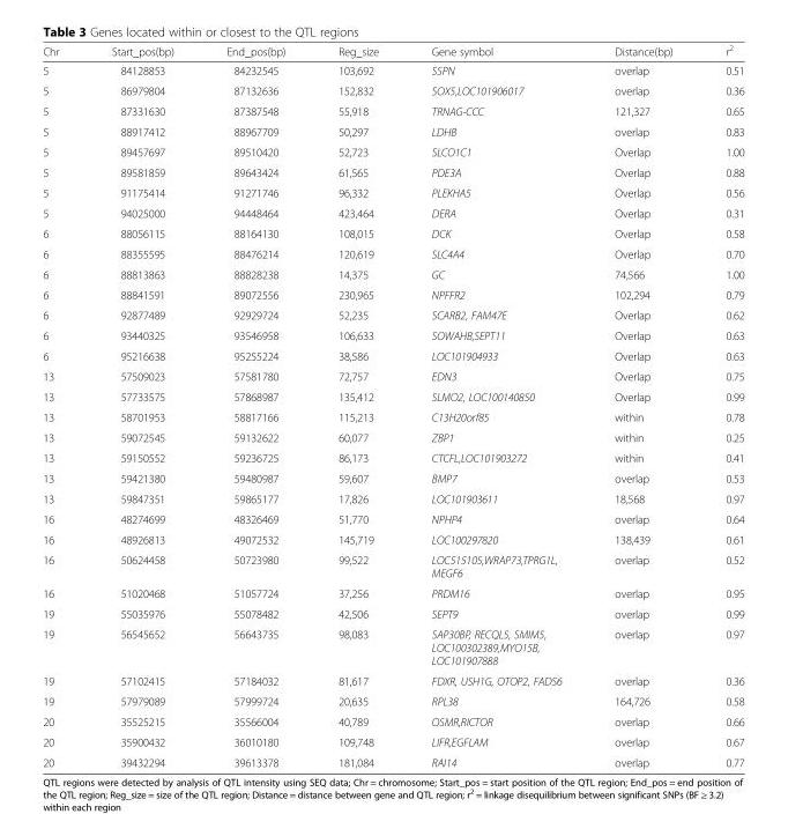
<table><thead><tr><td>Chr</td><td>Start_pos(bp)</td><td>End_pos(bp)</td><td>Reg_size</td><td>Gene symbol</td><td>Distance(bp)</td><td>r<sup>2</sup></td></tr></thead><tbody><tr><td>5</td><td>84128853</td><td>84232545</td><td>103,692</td><td>SSPN</td><td>overlap</td><td>0.51</td></tr><tr><td>5</td><td>86979804</td><td>87132636</td><td>152,832</td><td>SOX5,LOC101906017</td><td>overlap</td><td>0.36</td></tr><tr><td>5</td><td>87331630</td><td>87387548</td><td>55,918</td><td>TRNAG-CCC</td><td>121,327</td><td>0.65</td></tr><tr><td>5</td><td>88917412</td><td>88967709</td><td>50,297</td><td>LDHB</td><td>overlap</td><td>0.83</td></tr><tr><td>5</td><td>89457697</td><td>89510420</td><td>52,723</td><td>SLCO1C1</td><td>Overlap</td><td>1.00</td></tr><tr><td>5</td><td>89581859</td><td>89643424</td><td>61,565</td><td>PDE3A</td><td>Overlap</td><td>0.88</td></tr><tr><td>5</td><td>91175414</td><td>91271746</td><td>96,332</td><td>PLEKHA5</td><td>Overlap</td><td>0.56</td></tr><tr><td>5</td><td>94025000</td><td>94448464</td><td>423,464</td><td>DERA</td><td>Overlap</td><td>0.31</td></tr><tr><td>6</td><td>88056115</td><td>88164130</td><td>108,015</td><td>DCK</td><td>Overlap</td><td>0.58</td></tr><tr><td>6</td><td>88355595</td><td>88476214</td><td>120,619</td><td>SLC4A4</td><td>Overlap</td><td>0.70</td></tr><tr><td>6</td><td>88813863</td><td>88828238</td><td>14,375</td><td>GC</td><td>74,566</td><td>1.00</td></tr><tr><td>6</td><td>88841591</td><td>89072556</td><td>230,965</td><td>NPFFR2</td><td>102,294</td><td>0.79</td></tr><tr><td>6</td><td>92877489</td><td>92929724</td><td>52,235</td><td>SCARB2, FAM47E</td><td>Overlap</td><td>0.62</td></tr><tr><td>6</td><td>93440325</td><td>93546958</td><td>106,633</td><td>SOWAHB,SEPT11</td><td>Overlap</td><td>0.63</td></tr><tr><td>6</td><td>95216638</td><td>95255224</td><td>38,586</td><td>LOC101904933</td><td>Overlap</td><td>0.63</td></tr><tr><td>13</td><td>57509023</td><td>57581780</td><td>72,757</td><td>EDN3</td><td>Overlap</td><td>0.75</td></tr><tr><td>13</td><td>57733575</td><td>57868987</td><td>135,412</td><td>SLMO2, LOC100140850</td><td>Overlap</td><td>0.99</td></tr><tr><td>13</td><td>58701953</td><td>58817166</td><td>115,213</td><td>C13H20orf85</td><td>within</td><td>0.78</td></tr><tr><td>13</td><td>59072545</td><td>59132622</td><td>60,077</td><td>ZBP1</td><td>within</td><td>0.25</td></tr><tr><td>13</td><td>59150552</td><td>59236725</td><td>86,173</td><td>CTCFL,LOC101903272</td><td>within</td><td>0.41</td></tr><tr><td>13</td><td>59421380</td><td>59480987</td><td>59,607</td><td>BMP7</td><td>overlap</td><td>0.53</td></tr><tr><td>13</td><td>59847351</td><td>59865177</td><td>17,826</td><td>LOC101903611</td><td>18,568</td><td>0.97</td></tr><tr><td>16</td><td>48274699</td><td>48326469</td><td>51,770</td><td>NPHP4</td><td>overlap</td><td>0.64</td></tr><tr><td>16</td><td>48926813</td><td>49072532</td><td>145,719</td><td>LOC100297820</td><td>138,439</td><td>0.61</td></tr><tr><td>16</td><td>50624458</td><td>50723980</td><td>99,522</td><td>LOC515105,WRAP73,TPRG1L, MEGF6</td><td>overlap</td><td>0.52</td></tr><tr><td>16</td><td>51020468</td><td>51057724</td><td>37,256</td><td>PRDM16</td><td>overlap</td><td>0.95</td></tr><tr><td>19</td><td>55035976</td><td>55078482</td><td>42,506</td><td>SEPT9</td><td>overlap</td><td>0.99</td></tr><tr><td>19</td><td>56545652</td><td>56643735</td><td>98,083</td><td>SAP30BP, RECQL5, SMIM5, LOC100302389,MYO15B, LOC101907888</td><td>overlap</td><td>0.97</td></tr><tr><td>19</td><td>57102415</td><td>57184032</td><td>81,617</td><td>FDXR, USH1G, OTOP2, FADS6</td><td>overlap</td><td>0.36</td></tr><tr><td>19</td><td>57979089</td><td>57999724</td><td>20,635</td><td>RPL38</td><td>164,726</td><td>0.58</td></tr><tr><td>20</td><td>35525215</td><td>35566004</td><td>40,789</td><td>OSMR,RICTOR</td><td>overlap</td><td>0.66</td></tr><tr><td>20</td><td>35900432</td><td>36010180</td><td>109,748</td><td>LIFR,EGFLAM</td><td>overlap</td><td>0.67</td></tr><tr><td>20</td><td>39432294</td><td>39613378</td><td>181,084</td><td>RAI14</td><td>overlap</td><td>0.77</td></tr></tbody></table>